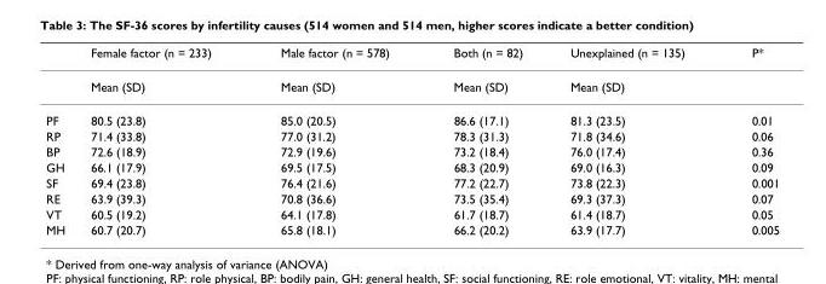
<table><thead><tr><td></td><td>Female factor (n = 233)</td><td>Male factor (n = 578)</td><td>Both (n = 82)</td><td>Unexplained (n = 135)</td><td>P*</td></tr></thead><tbody><tr><td></td><td>Mean (SD)</td><td>Mean (SD)</td><td>Mean (SD)</td><td>Mean (SD)</td><td></td></tr><tr><td>PF</td><td>80.5 (23.8)</td><td>85.0 (20.5)</td><td>86.6 (17.1)</td><td>81.3 (23.5)</td><td>0.01</td></tr><tr><td>RP</td><td>71.4 (33.8)</td><td>77.0 (31.2)</td><td>78.3 (31.3)</td><td>71.8 (34.6)</td><td>0.06</td></tr><tr><td>BP</td><td>72.6 (18.9)</td><td>72.9 (19.6)</td><td>73.2 (18.4)</td><td>76.0 (17.4)</td><td>0.36</td></tr><tr><td>GH</td><td>66.1 (17.9)</td><td>69.5 (17.5)</td><td>68.3 (20.9)</td><td>69.0 (16.3)</td><td>0.09</td></tr><tr><td>SF</td><td>69.4 (23.8)</td><td>76.4 (21.6)</td><td>77.2 (22.7)</td><td>73.8 (22.3)</td><td>0.001</td></tr><tr><td>RE</td><td>63.9 (39.3)</td><td>70.8 (36.6)</td><td>73.5 (35.4)</td><td>69.3 (37.3)</td><td>0.07</td></tr><tr><td>VT</td><td>60.5 (19.2)</td><td>64.1 (17.8)</td><td>61.7 (18.7)</td><td>61.4 (18.7)</td><td>0.05</td></tr><tr><td>MH</td><td>60.7 (20.7)</td><td>65.8 (18.1)</td><td>66.2 (20.2)</td><td>63.9 (17.7)</td><td>0.005</td></tr></tbody></table>